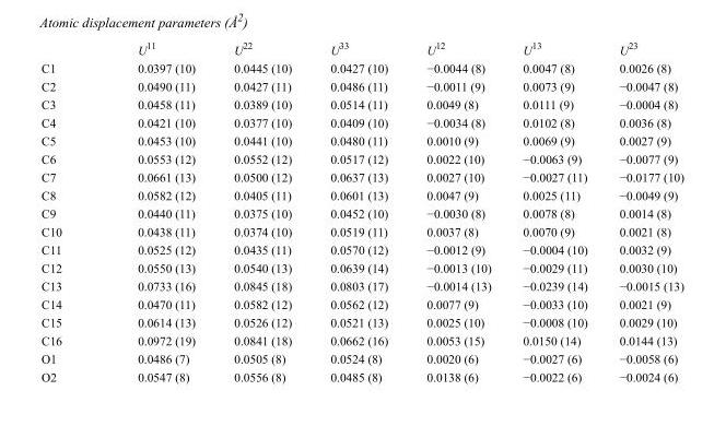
<table><thead><tr><td></td><td>U<sup>11</sup></td><td>U<sup>22</sup></td><td>U<sup>33</sup></td><td>U<sup>12</sup></td><td>U<sup>13</sup></td><td>U<sup>23</sup></td></tr></thead><tbody><tr><td>C1</td><td>0.0397 (10)</td><td>0.0445 (10)</td><td>0.0427 (10)</td><td>−0.0044 (8)</td><td>0.0047 (8)</td><td>0.0026 (8)</td></tr><tr><td>C2</td><td>0.0490 (11)</td><td>0.0427 (11)</td><td>0.0486 (11)</td><td>−0.0011 (9)</td><td>0.0073 (9)</td><td>−0.0047 (8)</td></tr><tr><td>C3</td><td>0.0458 (11)</td><td>0.0389 (10)</td><td>0.0514 (11)</td><td>0.0049 (8)</td><td>0.0111 (9)</td><td>−0.0004 (8)</td></tr><tr><td>C4</td><td>0.0421 (10)</td><td>0.0377 (10)</td><td>0.0409 (10)</td><td>−0.0034 (8)</td><td>0.0102 (8)</td><td>0.0036 (8)</td></tr><tr><td>C5</td><td>0.0453 (10)</td><td>0.0441 (10)</td><td>0.0480 (11)</td><td>0.0010 (9)</td><td>0.0069 (9)</td><td>0.0027 (9)</td></tr><tr><td>C6</td><td>0.0553 (12)</td><td>0.0552 (12)</td><td>0.0517 (12)</td><td>0.0022 (10)</td><td>−0.0063 (9)</td><td>−0.0077 (9)</td></tr><tr><td>C7</td><td>0.0661 (13)</td><td>0.0500 (12)</td><td>0.0637 (13)</td><td>0.0027 (10)</td><td>−0.0027 (11)</td><td>−0.0177 (10)</td></tr><tr><td>C8</td><td>0.0582 (12)</td><td>0.0405 (11)</td><td>0.0601 (13)</td><td>0.0047 (9)</td><td>0.0025 (11)</td><td>−0.0049 (9)</td></tr><tr><td>C9</td><td>0.0440 (11)</td><td>0.0375 (10)</td><td>0.0452 (10)</td><td>−0.0030 (8)</td><td>0.0078 (8)</td><td>0.0014 (8)</td></tr><tr><td>C10</td><td>0.0438 (11)</td><td>0.0374 (10)</td><td>0.0519 (11)</td><td>0.0037 (8)</td><td>0.0070 (9)</td><td>0.0021 (8)</td></tr><tr><td>C11</td><td>0.0525 (12)</td><td>0.0435 (11)</td><td>0.0570 (12)</td><td>−0.0012 (9)</td><td>−0.0004 (10)</td><td>0.0032 (9)</td></tr><tr><td>C12</td><td>0.0550 (13)</td><td>0.0540 (13)</td><td>0.0639 (14)</td><td>−0.0013 (10)</td><td>−0.0029 (11)</td><td>0.0030 (10)</td></tr><tr><td>C13</td><td>0.0733 (16)</td><td>0.0845 (18)</td><td>0.0803 (17)</td><td>−0.0014 (13)</td><td>−0.0239 (14)</td><td>−0.0015 (13)</td></tr><tr><td>C14</td><td>0.0470 (11)</td><td>0.0582 (12)</td><td>0.0562 (12)</td><td>0.0077 (9)</td><td>−0.0033 (10)</td><td>0.0021 (9)</td></tr><tr><td>C15</td><td>0.0614 (13)</td><td>0.0526 (12)</td><td>0.0521 (13)</td><td>0.0025 (10)</td><td>−0.0008 (10)</td><td>0.0029 (10)</td></tr><tr><td>C16</td><td>0.0972 (19)</td><td>0.0841 (18)</td><td>0.0662 (16)</td><td>0.0053 (15)</td><td>0.0150 (14)</td><td>0.0144 (13)</td></tr><tr><td>O1</td><td>0.0486 (7)</td><td>0.0505 (8)</td><td>0.0524 (8)</td><td>0.0020 (6)</td><td>−0.0027 (6)</td><td>−0.0058 (6)</td></tr><tr><td>O2</td><td>0.0547 (8)</td><td>0.0556 (8)</td><td>0.0485 (8)</td><td>0.0138 (6)</td><td>−0.0022 (6)</td><td>−0.0024 (6)</td></tr></tbody></table>